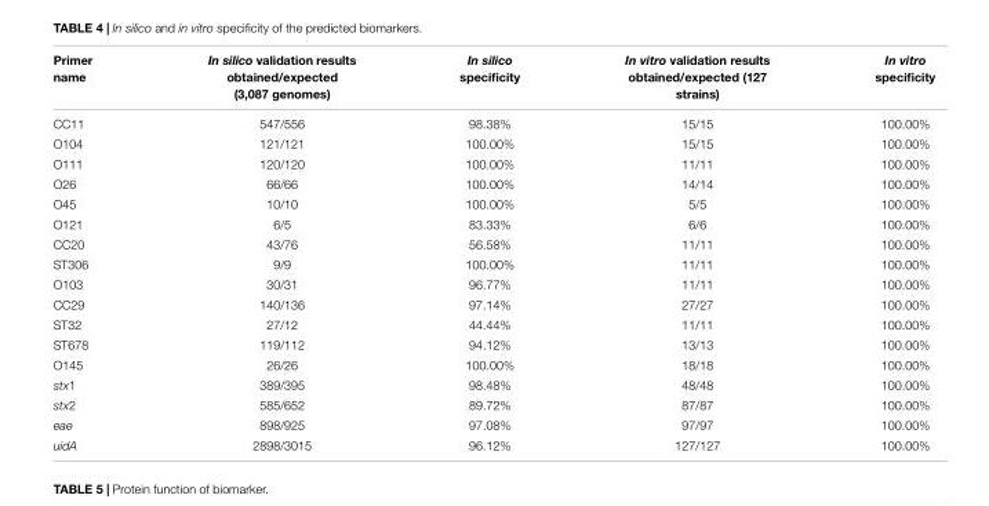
<table><thead><tr><td>Primer name</td><td>In silico validation results obtained/expected (3,087 genomes)</td><td>In silico specificity</td><td>In vitro validation results obtained/expected (127 strains)</td><td>In vitro specificity</td></tr></thead><tbody><tr><td>CC11</td><td>547/556</td><td>98.38%</td><td>15/15</td><td>100.00%</td></tr><tr><td>O104</td><td>121/121</td><td>100.00%</td><td>15/15</td><td>100.00%</td></tr><tr><td>O111</td><td>120/120</td><td>100.00%</td><td>11/11</td><td>100.00%</td></tr><tr><td>O26</td><td>66/66</td><td>100.00%</td><td>14/14</td><td>100.00%</td></tr><tr><td>O45</td><td>10/10</td><td>100.00%</td><td>5/5</td><td>100.00%</td></tr><tr><td>O121</td><td>6/5</td><td>83.33%</td><td>6/6</td><td>100.00%</td></tr><tr><td>CC20</td><td>43/76</td><td>56.58%</td><td>11/11</td><td>100.00%</td></tr><tr><td>ST306</td><td>9/9</td><td>100.00%</td><td>11/11</td><td>100.00%</td></tr><tr><td>O103</td><td>30/31</td><td>96.77%</td><td>11/11</td><td>100.00%</td></tr><tr><td>CC29</td><td>140/136</td><td>97.14%</td><td>27/27</td><td>100.00%</td></tr><tr><td>ST32</td><td>27/12</td><td>44.44%</td><td>11/11</td><td>100.00%</td></tr><tr><td>ST678</td><td>119/112</td><td>94.12%</td><td>13/13</td><td>100.00%</td></tr><tr><td>O145</td><td>26/26</td><td>100.00%</td><td>18/18</td><td>100.00%</td></tr><tr><td>stx1</td><td>389/395</td><td>98.48%</td><td>48/48</td><td>100.00%</td></tr><tr><td>stx2</td><td>585/652</td><td>89.72%</td><td>87/87</td><td>100.00%</td></tr><tr><td>eae</td><td>898/925</td><td>97.08%</td><td>97/97</td><td>100.00%</td></tr><tr><td>uidA</td><td>2898/3015</td><td>96.12%</td><td>127/127</td><td>100.00%</td></tr></tbody></table>